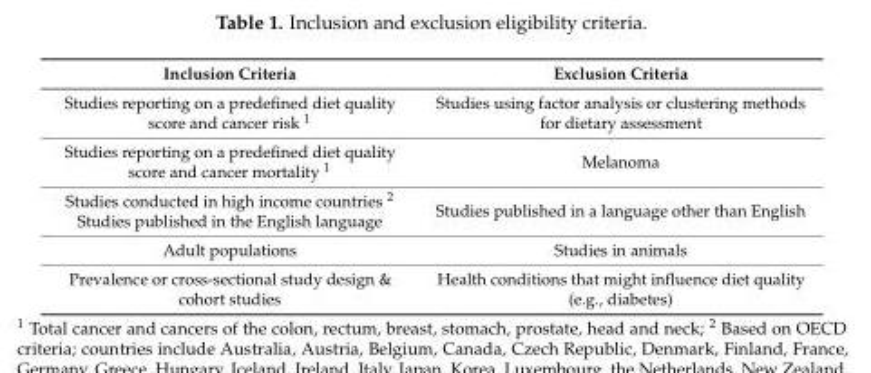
<table><thead><tr><td>Inclusion Criteria</td><td>Exclusion Criteria</td></tr></thead><tbody><tr><td>Studies reporting on a predefined diet quality score and cancer risk <sup>1</sup></td><td>Studies using factor analysis or clustering methods for dietary assessment</td></tr><tr><td>Studies reporting on a predefined diet quality score and cancer mortality <sup>1</sup></td><td>Melanoma</td></tr><tr><td>Studies conducted in high income countries <sup>2</sup> Studies published in the English language</td><td>Studies published in a language other than English</td></tr><tr><td>Adult populations</td><td>Studies in animals</td></tr><tr><td>Prevalence or cross-sectional study design &amp; cohort studies</td><td>Health conditions that might influence diet quality (e.g., diabetes)</td></tr></tbody></table>